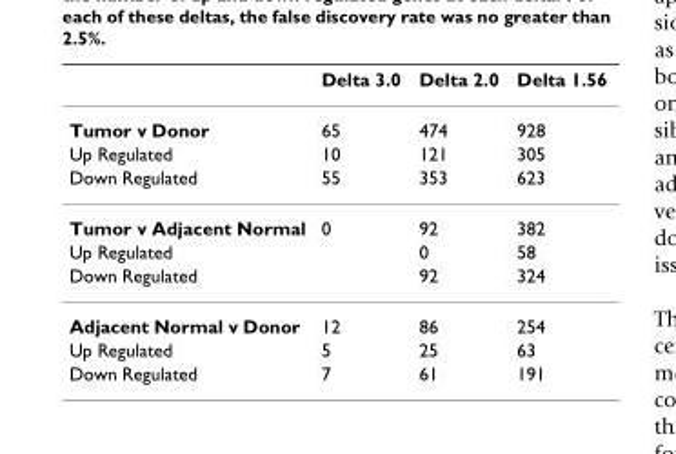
<table><thead><tr><td></td><td>Delta 3.0</td><td>Delta 2.0</td><td>Delta 1.56</td></tr></thead><tbody><tr><td>Tumor v Donor</td><td>65</td><td>474</td><td>928</td></tr><tr><td>Up Regulated</td><td>10</td><td>121</td><td>305</td></tr><tr><td>Down Regulated</td><td>55</td><td>353</td><td>623</td></tr><tr><td>Tumor v Adjacent Normal</td><td>0</td><td>92</td><td>382</td></tr><tr><td>Up Regulated</td><td></td><td>0</td><td>58</td></tr><tr><td>Down Regulated</td><td></td><td>92</td><td>324</td></tr><tr><td>Adjacent Normal v Donor</td><td>12</td><td>86</td><td>254</td></tr><tr><td>Up Regulated</td><td>5</td><td>25</td><td>63</td></tr><tr><td>Down Regulated</td><td>7</td><td>61</td><td>191</td></tr></tbody></table>